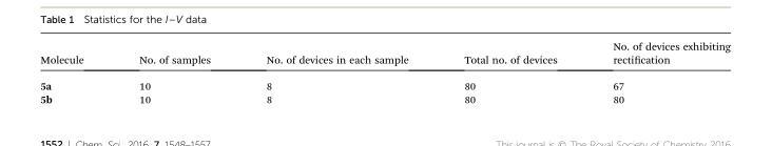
<table><thead><tr><td>Molecule</td><td>No. of samples</td><td>No. of devices in each sample</td><td>Total no. of devices</td><td>No. of devices exhibiting rectication</td></tr></thead><tbody><tr><td>5a</td><td>10</td><td>8</td><td>80</td><td>67</td></tr><tr><td>5b</td><td>10</td><td>8</td><td>80</td><td>80</td></tr></tbody></table>